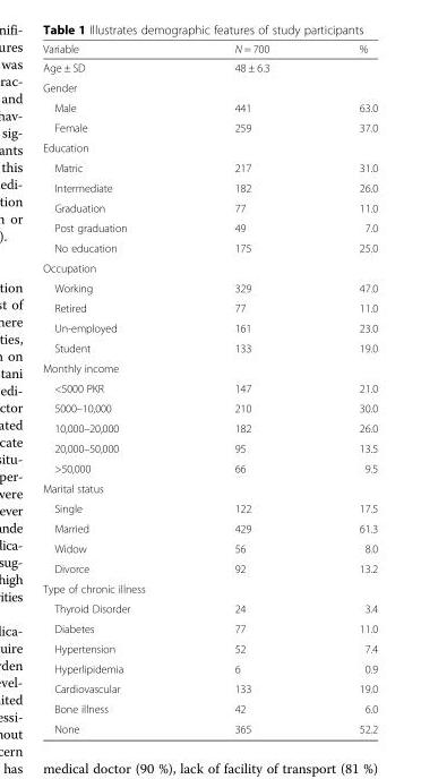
<table><thead><tr><td>Variable</td><td>N = 700</td><td>%</td></tr></thead><tbody><tr><td>Age ± SD</td><td>48 ± 6.3</td><td></td></tr><tr><td colspan="3">Gender</td></tr><tr><td>Male</td><td>441</td><td>63.0</td></tr><tr><td>Female</td><td>259</td><td>37.0</td></tr><tr><td colspan="3">Education</td></tr><tr><td>Matric</td><td>217</td><td>31.0</td></tr><tr><td>Intermediate</td><td>182</td><td>26.0</td></tr><tr><td>Graduation</td><td>77</td><td>11.0</td></tr><tr><td>Post graduation</td><td>49</td><td>7.0</td></tr><tr><td>No education</td><td>175</td><td>25.0</td></tr><tr><td colspan="3">Occupation</td></tr><tr><td>Working</td><td>329</td><td>47.0</td></tr><tr><td>Retired</td><td>77</td><td>11.0</td></tr><tr><td>Un-employed</td><td>161</td><td>23.0</td></tr><tr><td>Student</td><td>133</td><td>19.0</td></tr><tr><td colspan="3">Monthly income</td></tr><tr><td>&lt;5000 PKR</td><td>147</td><td>21.0</td></tr><tr><td>5000–10,000</td><td>210</td><td>30.0</td></tr><tr><td>10,000–20,000</td><td>182</td><td>26.0</td></tr><tr><td>20,000–50,000</td><td>95</td><td>13.5</td></tr><tr><td>&gt;50,000</td><td>66</td><td>9.5</td></tr><tr><td colspan="3">Marital status</td></tr><tr><td>Single</td><td>122</td><td>17.5</td></tr><tr><td>Married</td><td>429</td><td>61.3</td></tr><tr><td>Widow</td><td>56</td><td>8.0</td></tr><tr><td>Divorce</td><td>92</td><td>13.2</td></tr><tr><td colspan="3">Type of chronic illness</td></tr><tr><td>Thyroid Disorder</td><td>24</td><td>3.4</td></tr><tr><td>Diabetes</td><td>77</td><td>11.0</td></tr><tr><td>Hypertension</td><td>52</td><td>7.4</td></tr><tr><td>Hyperlipidemia</td><td>6</td><td>0.9</td></tr><tr><td>Cardiovascular</td><td>133</td><td>19.0</td></tr><tr><td>Bone illness</td><td>42</td><td>6.0</td></tr><tr><td>None</td><td>365</td><td>52.2</td></tr></tbody></table>